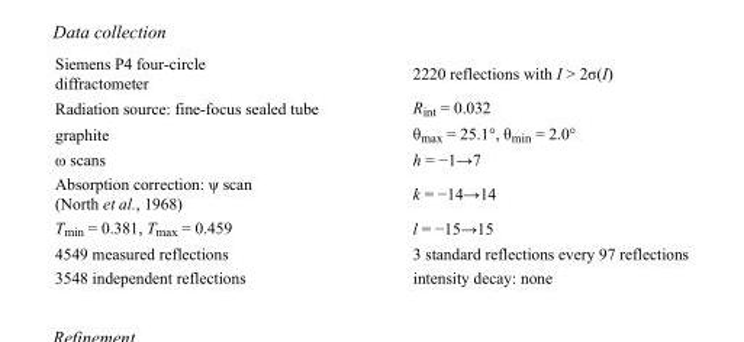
<table><tbody><tr><td>Siemens P4 four-circle diffractometer</td><td>2220 reflections with I &gt; 2σ(I)</td></tr><tr><td>Radiation source: fine-focus sealed tube</td><td>R<sub>int</sub> = 0.032</td></tr><tr><td>graphite</td><td>θ<sub>max</sub> = 25.1°, θ<sub>min</sub> = 2.0°</td></tr><tr><td>ω scans</td><td>h = −1→7</td></tr><tr><td>Absorption correction: ψ scan (North et al., 1968)</td><td>k = −14→14</td></tr><tr><td>T<sub>min</sub> = 0.381, T<sub>max</sub> = 0.459</td><td>l = −15→15</td></tr><tr><td>4549 measured reflections</td><td>3 standard reflections every 97 reflections</td></tr><tr><td>3548 independent reflections</td><td>intensity decay: none</td></tr></tbody></table>